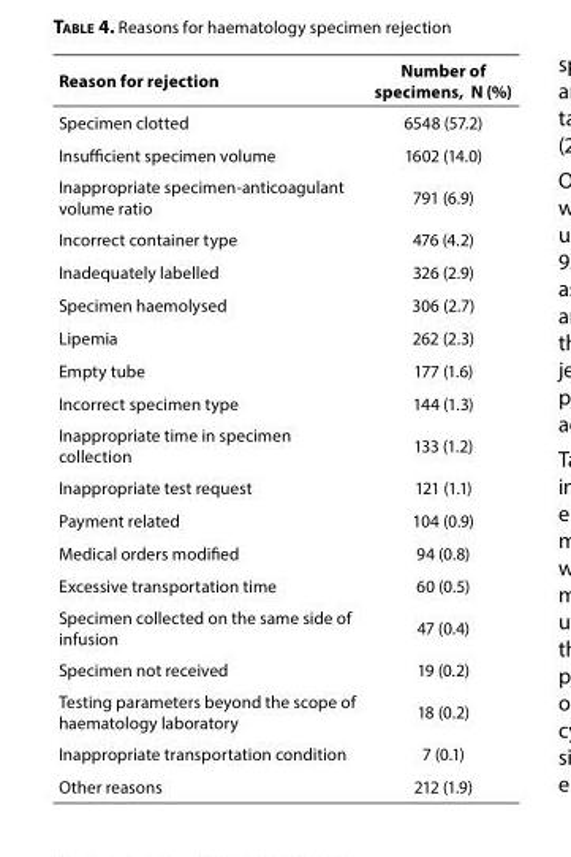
<table><thead><tr><td>Reason for rejection</td><td>Number of specimens, N (%)</td></tr></thead><tbody><tr><td>Specimen clotted</td><td>6548 (57.2)</td></tr><tr><td>Insufficient specimen volume</td><td>1602 (14.0)</td></tr><tr><td>Inappropriate specimen-anticoagulant volume ratio</td><td>791 (6.9)</td></tr><tr><td>Incorrect container type</td><td>476 (4.2)</td></tr><tr><td>Inadequately labelled</td><td>326 (2.9)</td></tr><tr><td>Specimen haemolysed</td><td>306 (2.7)</td></tr><tr><td>Lipemia</td><td>262 (2.3)</td></tr><tr><td>Empty tube</td><td>177 (1.6)</td></tr><tr><td>Incorrect specimen type</td><td>144 (1.3)</td></tr><tr><td>Inappropriate time in specimen collection</td><td>133 (1.2)</td></tr><tr><td>Inappropriate test request</td><td>121 (1.1)</td></tr><tr><td>Payment related</td><td>104 (0.9)</td></tr><tr><td>Medical orders modified</td><td>94 (0.8)</td></tr><tr><td>Excessive transportation time</td><td>60 (0.5)</td></tr><tr><td>Specimen collected on the same side of infusion</td><td>47 (0.4)</td></tr><tr><td>Specimen not received</td><td>19 (0.2)</td></tr><tr><td>Testing parameters beyond the scope of haematology laboratory</td><td>18 (0.2)</td></tr><tr><td>Inappropriate transportation condition</td><td>7 (0.1)</td></tr><tr><td>Other reasons</td><td>212 (1.9)</td></tr></tbody></table>